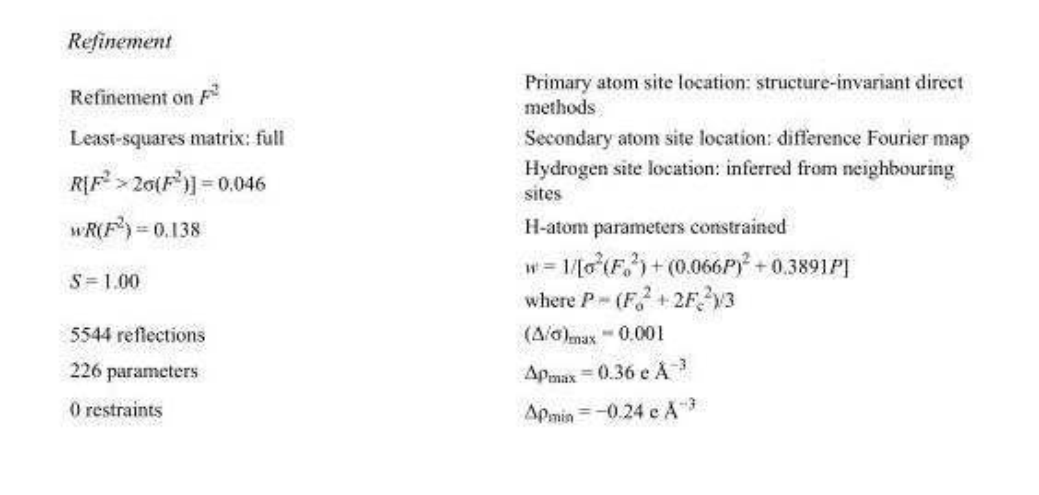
<table><tbody><tr><td>Refinement on F<sup>2</sup></td><td>Primary atom site location: structure-invariant direct methods</td></tr><tr><td>Least-squares matrix: full</td><td>Secondary atom site location: difference Fourier map</td></tr><tr><td>R[F<sup>2</sup> &gt; 2σ(F<sup>2</sup>)] = 0.046</td><td>Hydrogen site location: inferred from neighbouring sites</td></tr><tr><td>wR(F<sup>2</sup>) = 0.138</td><td>H-atom parameters constrained</td></tr><tr><td>S = 1.00</td><td>w = 1/[σ<sup>2</sup>(F<sub>o</sub> <sup>2</sup>) + (0.066P)<sup>2</sup> + 0.3891P] where P = (F<sub>o</sub> <sup>2</sup> + 2F<sub>c</sub> <sup>2</sup>)/3</td></tr><tr><td>5544 reflections</td><td>(Δ/σ)<sub>max</sub> = 0.001</td></tr><tr><td>226 parameters</td><td>Δρ<sub>max</sub> = 0.36 e Å<sup>−3</sup></td></tr><tr><td>0 restraints</td><td>Δρ<sub>min</sub> = −0.24 e Å<sup>−3</sup></td></tr></tbody></table>